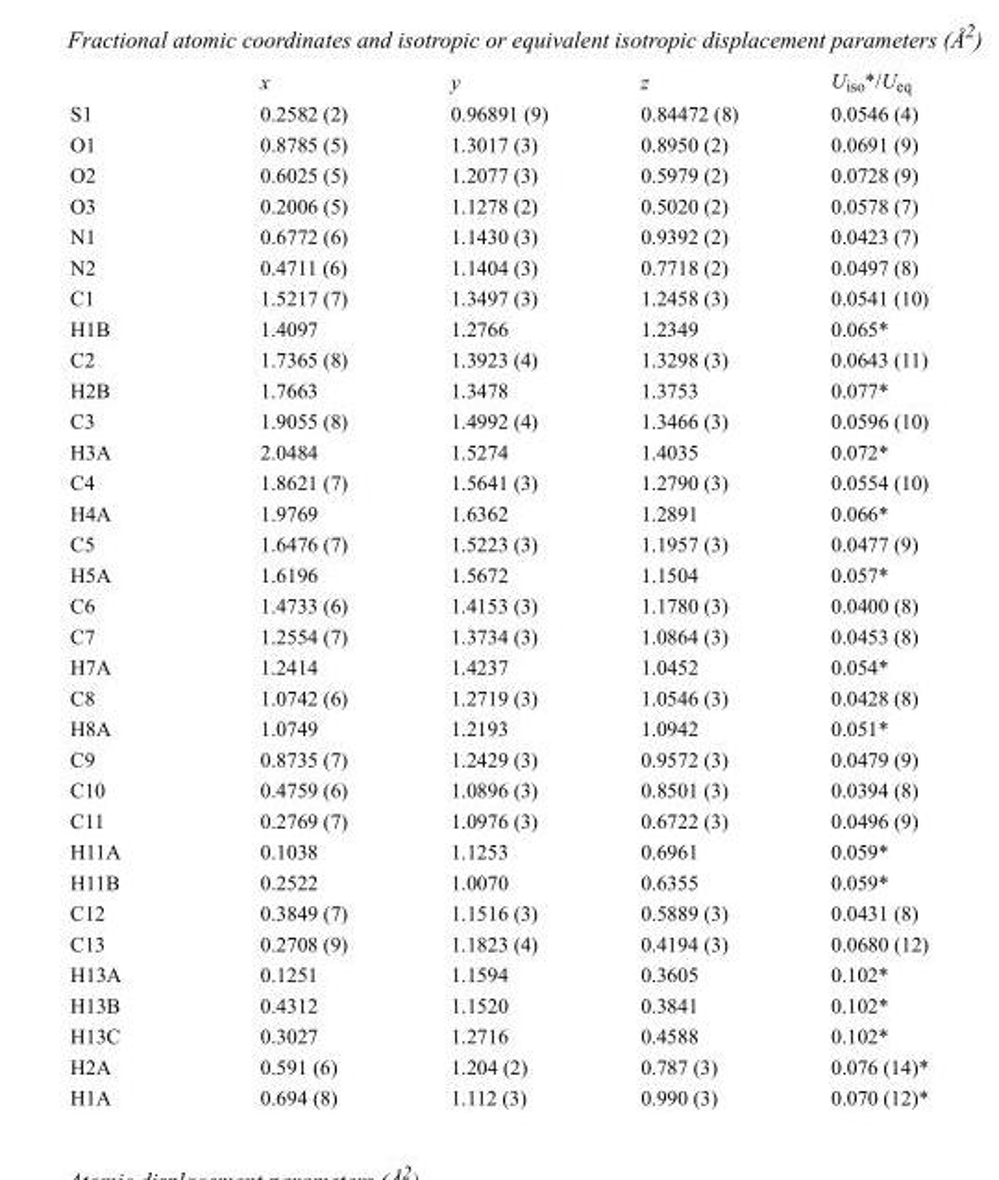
<table><thead><tr><td></td><td>x</td><td>y</td><td>z</td><td>U<sub>iso</sub>*/U<sub>eq</sub></td></tr></thead><tbody><tr><td>S1</td><td>0.2582 (2)</td><td>0.96891 (9)</td><td>0.84472 (8)</td><td>0.0546 (4)</td></tr><tr><td>O1</td><td>0.8785 (5)</td><td>1.3017 (3)</td><td>0.8950 (2)</td><td>0.0691 (9)</td></tr><tr><td>O2</td><td>0.6025 (5)</td><td>1.2077 (3)</td><td>0.5979 (2)</td><td>0.0728 (9)</td></tr><tr><td>O3</td><td>0.2006 (5)</td><td>1.1278 (2)</td><td>0.5020 (2)</td><td>0.0578 (7)</td></tr><tr><td>N1</td><td>0.6772 (6)</td><td>1.1430 (3)</td><td>0.9392 (2)</td><td>0.0423 (7)</td></tr><tr><td>N2</td><td>0.4711 (6)</td><td>1.1404 (3)</td><td>0.7718 (2)</td><td>0.0497 (8)</td></tr><tr><td>C1</td><td>1.5217 (7)</td><td>1.3497 (3)</td><td>1.2458 (3)</td><td>0.0541 (10)</td></tr><tr><td>H1B</td><td>1.4097</td><td>1.2766</td><td>1.2349</td><td>0.065*</td></tr><tr><td>C2</td><td>1.7365 (8)</td><td>1.3923 (4)</td><td>1.3298 (3)</td><td>0.0643 (11)</td></tr><tr><td>H2B</td><td>1.7663</td><td>1.3478</td><td>1.3753</td><td>0.077*</td></tr><tr><td>C3</td><td>1.9055 (8)</td><td>1.4992 (4)</td><td>1.3466 (3)</td><td>0.0596 (10)</td></tr><tr><td>H3A</td><td>2.0484</td><td>1.5274</td><td>1.4035</td><td>0.072*</td></tr><tr><td>C4</td><td>1.8621 (7)</td><td>1.5641 (3)</td><td>1.2790 (3)</td><td>0.0554 (10)</td></tr><tr><td>H4A</td><td>1.9769</td><td>1.6362</td><td>1.2891</td><td>0.066*</td></tr><tr><td>C5</td><td>1.6476 (7)</td><td>1.5223 (3)</td><td>1.1957 (3)</td><td>0.0477 (9)</td></tr><tr><td>H5A</td><td>1.6196</td><td>1.5672</td><td>1.1504</td><td>0.057*</td></tr><tr><td>C6</td><td>1.4733 (6)</td><td>1.4153 (3)</td><td>1.1780 (3)</td><td>0.0400 (8)</td></tr><tr><td>C7</td><td>1.2554 (7)</td><td>1.3734 (3)</td><td>1.0864 (3)</td><td>0.0453 (8)</td></tr><tr><td>H7A</td><td>1.2414</td><td>1.4237</td><td>1.0452</td><td>0.054*</td></tr><tr><td>C8</td><td>1.0742 (6)</td><td>1.2719 (3)</td><td>1.0546 (3)</td><td>0.0428 (8)</td></tr><tr><td>H8A</td><td>1.0749</td><td>1.2193</td><td>1.0942</td><td>0.051*</td></tr><tr><td>C9</td><td>0.8735 (7)</td><td>1.2429 (3)</td><td>0.9572 (3)</td><td>0.0479 (9)</td></tr><tr><td>C10</td><td>0.4759 (6)</td><td>1.0896 (3)</td><td>0.8501 (3)</td><td>0.0394 (8)</td></tr><tr><td>C11</td><td>0.2769 (7)</td><td>1.0976 (3)</td><td>0.6722 (3)</td><td>0.0496 (9)</td></tr><tr><td>H11A</td><td>0.1038</td><td>1.1253</td><td>0.6961</td><td>0.059*</td></tr><tr><td>H11B</td><td>0.2522</td><td>1.0070</td><td>0.6355</td><td>0.059*</td></tr><tr><td>C12</td><td>0.3849 (7)</td><td>1.1516 (3)</td><td>0.5889 (3)</td><td>0.0431 (8)</td></tr><tr><td>C13</td><td>0.2708 (9)</td><td>1.1823 (4)</td><td>0.4194 (3)</td><td>0.0680 (12)</td></tr><tr><td>H13A</td><td>0.1251</td><td>1.1594</td><td>0.3605</td><td>0.102*</td></tr><tr><td>H13B</td><td>0.4312</td><td>1.1520</td><td>0.3841</td><td>0.102*</td></tr><tr><td>H13C</td><td>0.3027</td><td>1.2716</td><td>0.4588</td><td>0.102*</td></tr><tr><td>H2A</td><td>0.591 (6)</td><td>1.204 (2)</td><td>0.787 (3)</td><td>0.076 (14)*</td></tr><tr><td>H1A</td><td>0.694 (8)</td><td>1.112 (3)</td><td>0.990 (3)</td><td>0.070 (12)*</td></tr></tbody></table>